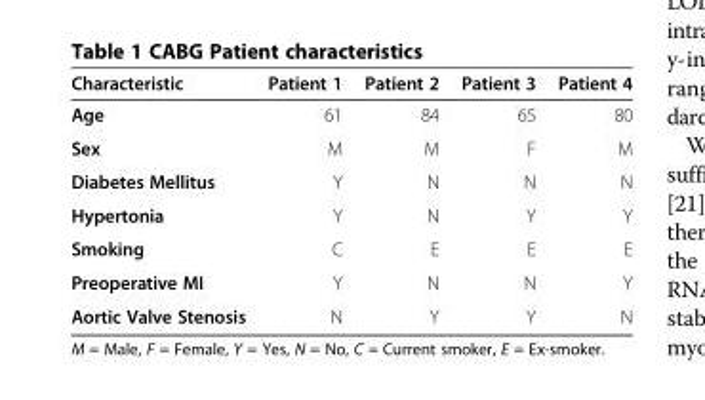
<table><thead><tr><td>Characteristic</td><td>Patient 1</td><td>Patient 2</td><td>Patient 3</td><td>Patient 4</td></tr></thead><tbody><tr><td>Age</td><td>61</td><td>84</td><td>65</td><td>80</td></tr><tr><td>Sex</td><td>M</td><td>M</td><td>F</td><td>M</td></tr><tr><td>Diabetes Mellitus</td><td>Y</td><td>N</td><td>N</td><td>N</td></tr><tr><td>Hypertonia</td><td>Y</td><td>N</td><td>Y</td><td>Y</td></tr><tr><td>Smoking</td><td>C</td><td>E</td><td>E</td><td>E</td></tr><tr><td>Preoperative MI</td><td>Y</td><td>N</td><td>N</td><td>Y</td></tr><tr><td>Aortic Valve Stenosis</td><td>N</td><td>Y</td><td>Y</td><td>N</td></tr></tbody></table>